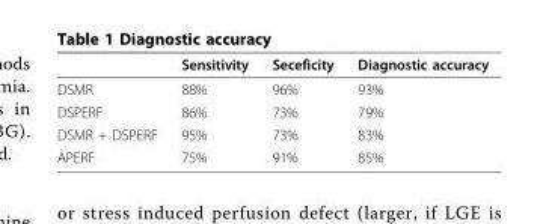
<table><thead><tr><td></td><td>Sensitivity</td><td>Seceficity</td><td>Diagnostic accuracy</td></tr></thead><tbody><tr><td>DSMR</td><td>88%</td><td>96%</td><td>93%</td></tr><tr><td>DSPERF</td><td>86%</td><td>73%</td><td>79%</td></tr><tr><td>DSMR + DSPERF</td><td>95%</td><td>73%</td><td>83%</td></tr><tr><td>APERF</td><td>75%</td><td>91%</td><td>85%</td></tr></tbody></table>